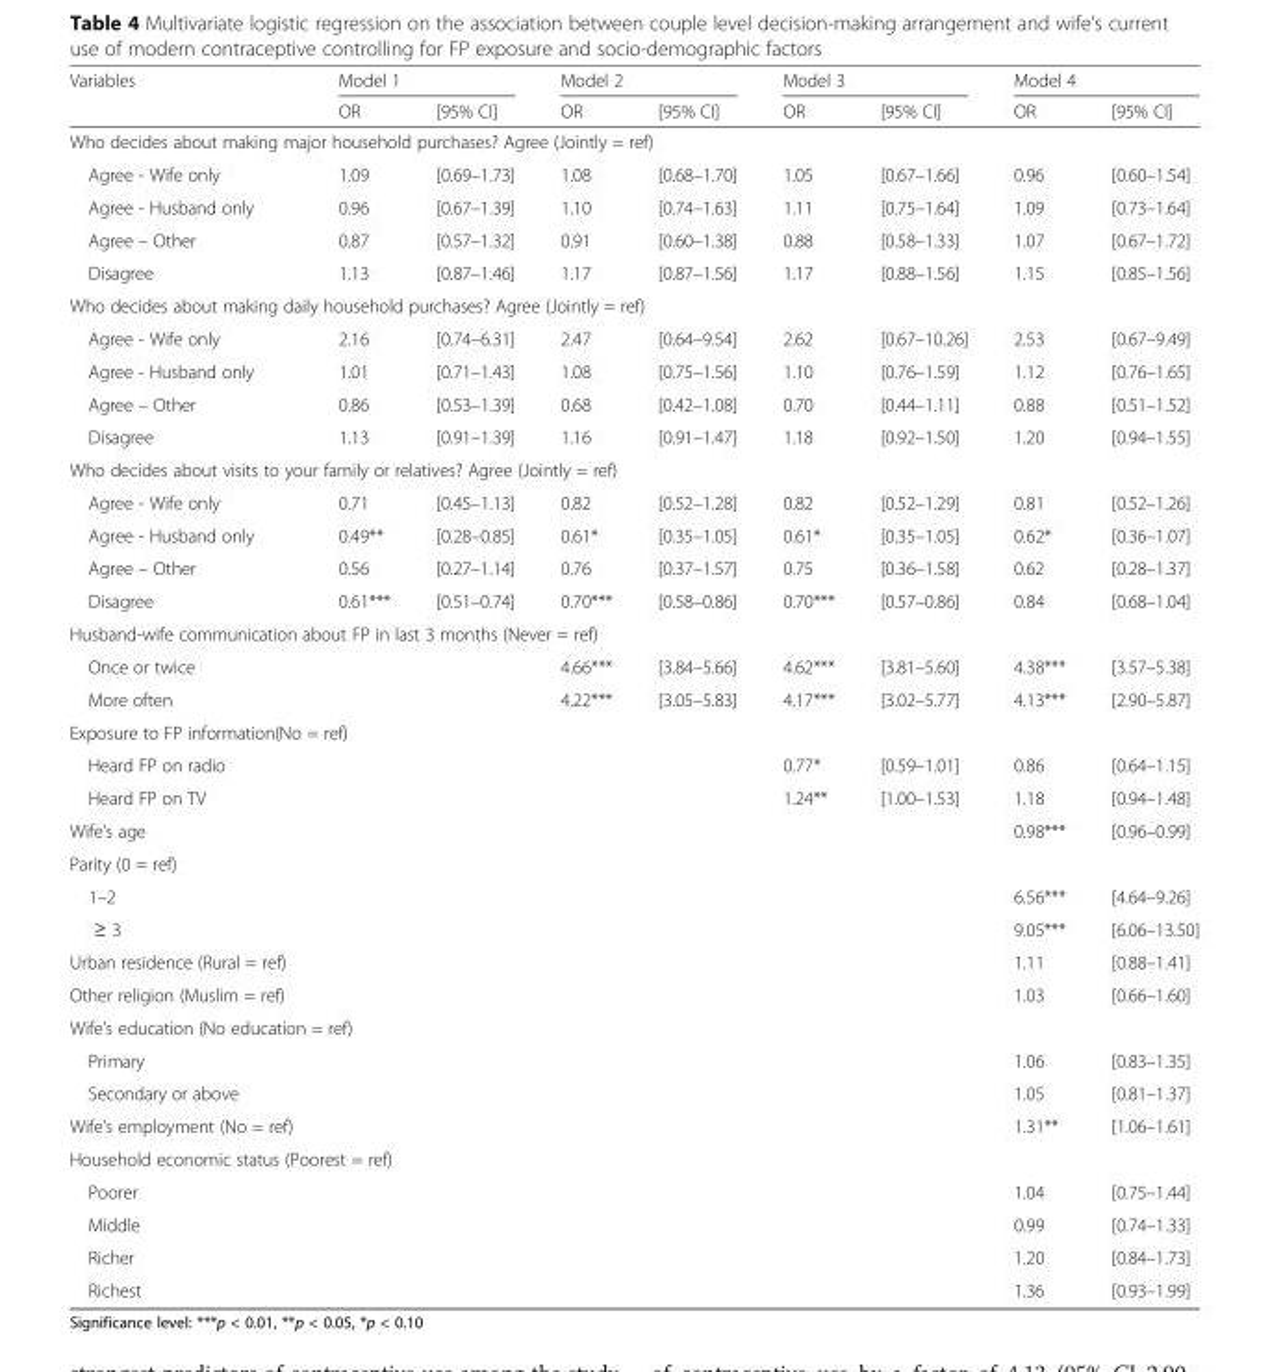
<table><thead><tr><td rowspan="2">Variables</td><td colspan="2">Model 1</td><td colspan="2">Model 2</td><td colspan="2">Model 3</td><td colspan="2">Model 4</td></tr><tr><td>OR</td><td>[95% CI]</td><td>OR</td><td>[95% CI]</td><td>OR</td><td>[95% CI]</td><td>OR</td><td>[95% CI]</td></tr></thead><tbody><tr><td colspan="9">Who decides about making major household purchases? Agree (Jointly = ref)</td></tr><tr><td>Agree - Wife only</td><td>1.09</td><td>[0.69–1.73]</td><td>1.08</td><td>[0.68–1.70]</td><td>1.05</td><td>[0.67–1.66]</td><td>0.96</td><td>[0.60–1.54]</td></tr><tr><td>Agree - Husband only</td><td>0.96</td><td>[0.67–1.39]</td><td>1.10</td><td>[0.74–1.63]</td><td>1.11</td><td>[0.75–1.64]</td><td>1.09</td><td>[0.73–1.64]</td></tr><tr><td>Agree – Other</td><td>0.87</td><td>[0.57–1.32]</td><td>0.91</td><td>[0.60–1.38]</td><td>0.88</td><td>[0.58–1.33]</td><td>1.07</td><td>[0.67–1.72]</td></tr><tr><td>Disagree</td><td>1.13</td><td>[0.87–1.46]</td><td>1.17</td><td>[0.87–1.56]</td><td>1.17</td><td>[0.88–1.56]</td><td>1.15</td><td>[0.85–1.56]</td></tr><tr><td colspan="9">Who decides about making daily household purchases? Agree (Jointly = ref)</td></tr><tr><td>Agree - Wife only</td><td>2.16</td><td>[0.74–6.31]</td><td>2.47</td><td>[0.64–9.54]</td><td>2.62</td><td>[0.67–10.26]</td><td>2.53</td><td>[0.67–9.49]</td></tr><tr><td>Agree - Husband only</td><td>1.01</td><td>[0.71–1.43]</td><td>1.08</td><td>[0.75–1.56]</td><td>1.10</td><td>[0.76–1.59]</td><td>1.12</td><td>[0.76–1.65]</td></tr><tr><td>Agree – Other</td><td>0.86</td><td>[0.53–1.39]</td><td>0.68</td><td>[0.42–1.08]</td><td>0.70</td><td>[0.44–1.11]</td><td>0.88</td><td>[0.51–1.52]</td></tr><tr><td>Disagree</td><td>1.13</td><td>[0.91–1.39]</td><td>1.16</td><td>[0.91–1.47]</td><td>1.18</td><td>[0.92–1.50]</td><td>1.20</td><td>[0.94–1.55]</td></tr><tr><td colspan="9">Who decides about visits to your family or relatives? Agree (Jointly = ref)</td></tr><tr><td>Agree - Wife only</td><td>0.71</td><td>[0.45–1.13]</td><td>0.82</td><td>[0.52–1.28]</td><td>0.82</td><td>[0.52–1.29]</td><td>0.81</td><td>[0.52–1.26]</td></tr><tr><td>Agree - Husband only</td><td>0.49**</td><td>[0.28–0.85]</td><td>0.61*</td><td>[0.35–1.05]</td><td>0.61*</td><td>[0.35–1.05]</td><td>0.62*</td><td>[0.36–1.07]</td></tr><tr><td>Agree – Other</td><td>0.56</td><td>[0.27–1.14]</td><td>0.76</td><td>[0.37–1.57]</td><td>0.75</td><td>[0.36–1.58]</td><td>0.62</td><td>[0.28–1.37]</td></tr><tr><td>Disagree</td><td>0.61***</td><td>[0.51–0.74]</td><td>0.70***</td><td>[0.58–0.86]</td><td>0.70***</td><td>[0.57–0.86]</td><td>0.84</td><td>[0.68–1.04]</td></tr><tr><td colspan="9">Husband-wife communication about FP in last 3 months (Never = ref)</td></tr><tr><td>Once or twice</td><td></td><td></td><td>4.66***</td><td>[3.84–5.66]</td><td>4.62***</td><td>[3.81–5.60]</td><td>4.38***</td><td>[3.57–5.38]</td></tr><tr><td>More often</td><td></td><td></td><td>4.22***</td><td>[3.05–5.83]</td><td>4.17***</td><td>[3.02–5.77]</td><td>4.13***</td><td>[2.90–5.87]</td></tr><tr><td colspan="9">Exposure to FP information(No = ref)</td></tr><tr><td>Heard FP on radio</td><td></td><td></td><td></td><td></td><td>0.77*</td><td>[0.59–1.01]</td><td>0.86</td><td>[0.64–1.15]</td></tr><tr><td>Heard FP on TV</td><td></td><td></td><td></td><td></td><td>1.24**</td><td>[1.00–1.53]</td><td>1.18</td><td>[0.94–1.48]</td></tr><tr><td>Wife’s age</td><td></td><td></td><td></td><td></td><td></td><td></td><td>0.98***</td><td>[0.96–0.99]</td></tr><tr><td colspan="9">Parity (0 = ref)</td></tr><tr><td>1–2</td><td></td><td></td><td></td><td></td><td></td><td></td><td>6.56***</td><td>[4.64–9.26]</td></tr><tr><td>≥ 3</td><td></td><td></td><td></td><td></td><td></td><td></td><td>9.05***</td><td>[6.06–13.50]</td></tr><tr><td>Urban residence (Rural = ref)</td><td></td><td></td><td></td><td></td><td></td><td></td><td>1.11</td><td>[0.88–1.41]</td></tr><tr><td>Other religion (Muslim = ref)</td><td></td><td></td><td></td><td></td><td></td><td></td><td>1.03</td><td>[0.66–1.60]</td></tr><tr><td colspan="9">Wife’s education (No education = ref)</td></tr><tr><td>Primary</td><td></td><td></td><td></td><td></td><td></td><td></td><td>1.06</td><td>[0.83–1.35]</td></tr><tr><td>Secondary or above</td><td></td><td></td><td></td><td></td><td></td><td></td><td>1.05</td><td>[0.81–1.37]</td></tr><tr><td>Wife’s employment (No = ref)</td><td></td><td></td><td></td><td></td><td></td><td></td><td>1.31**</td><td>[1.06–1.61]</td></tr><tr><td colspan="9">Household economic status (Poorest = ref)</td></tr><tr><td>Poorer</td><td></td><td></td><td></td><td></td><td></td><td></td><td>1.04</td><td>[0.75–1.44]</td></tr><tr><td>Middle</td><td></td><td></td><td></td><td></td><td></td><td></td><td>0.99</td><td>[0.74–1.33]</td></tr><tr><td>Richer</td><td></td><td></td><td></td><td></td><td></td><td></td><td>1.20</td><td>[0.84–1.73]</td></tr><tr><td>Richest</td><td></td><td></td><td></td><td></td><td></td><td></td><td>1.36</td><td>[0.93–1.99]</td></tr></tbody></table>